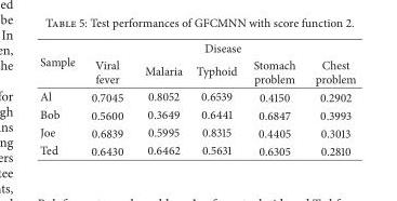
<table><thead><tr><td rowspan="2">Sample</td><td colspan="5">Disease</td></tr><tr><td>Viral fever</td><td>Malaria</td><td>Typhoid</td><td>Stomach problem</td><td>Chest problem</td></tr></thead><tbody><tr><td>Al</td><td>0.7045</td><td>0.8052</td><td>0.6539</td><td>0.4150</td><td>0.2902</td></tr><tr><td>Bob</td><td>0.5600</td><td>0.3649</td><td>0.6441</td><td>0.6847</td><td>0.3993</td></tr><tr><td>Joe</td><td>0.6839</td><td>0.5995</td><td>0.8315</td><td>0.4405</td><td>0.3013</td></tr><tr><td>Ted</td><td>0.6430</td><td>0.6462</td><td>0.5631</td><td>0.6305</td><td>0.2810</td></tr></tbody></table>